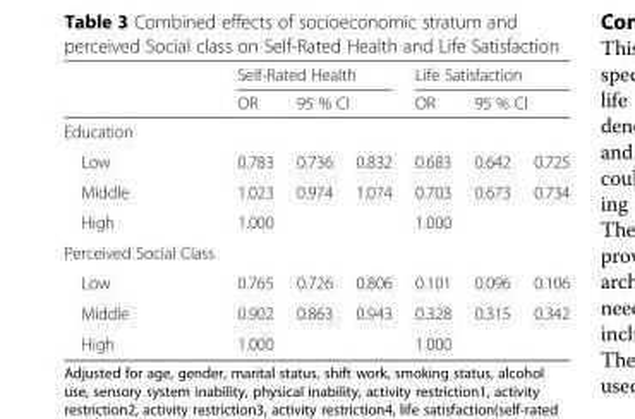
<table><thead><tr><td rowspan="3">Education</td><td colspan="3">Self-Rated Health</td><td colspan="3">Life Satisfaction</td></tr><tr><td rowspan="2">OR</td><td colspan="2">95 % CI</td><td rowspan="2">OR</td><td colspan="2">95 % CI</td></tr><tr><td></td><td></td><td></td><td></td></tr></thead><tbody><tr><td>Low</td><td>0.783</td><td>0.736</td><td>0.832</td><td>0.683</td><td>0.642</td><td>0.725</td></tr><tr><td>Middle</td><td>1.023</td><td>0.974</td><td>1.074</td><td>0.703</td><td>0.673</td><td>0.734</td></tr><tr><td>High</td><td>1.000</td><td></td><td></td><td>1.000</td><td></td><td></td></tr><tr><td colspan="7">Perceived Social Class</td></tr><tr><td>Low</td><td>0.765</td><td>0.726</td><td>0.806</td><td>0.101</td><td>0.096</td><td>0.106</td></tr><tr><td>Middle</td><td>0.902</td><td>0.863</td><td>0.943</td><td>0.328</td><td>0.315</td><td>0.342</td></tr><tr><td>High</td><td>1.000</td><td></td><td></td><td>1.000</td><td></td><td></td></tr></tbody></table>